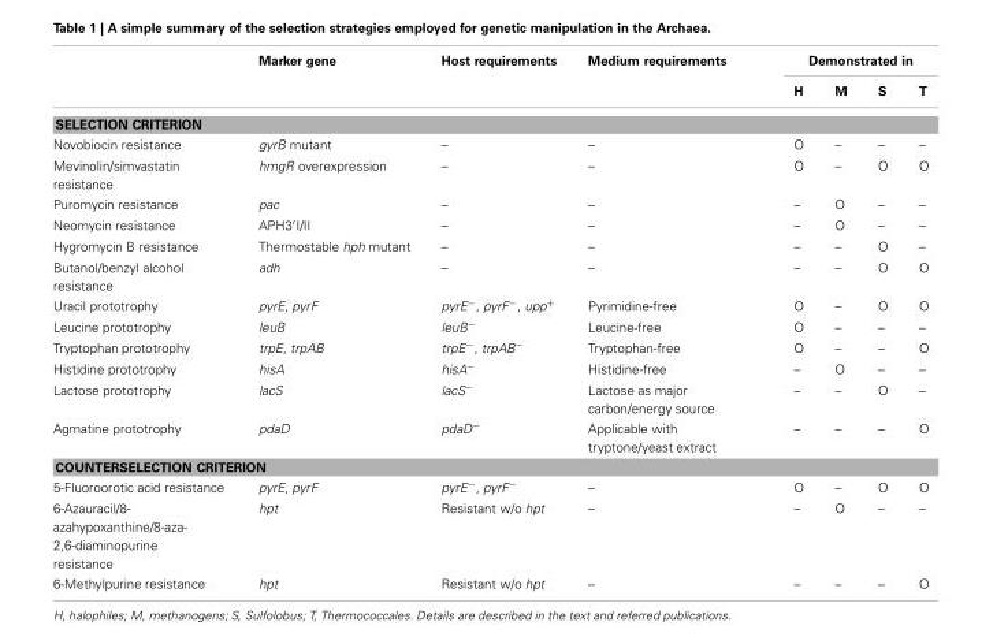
<table><thead><tr><td rowspan="2"></td><td rowspan="2">Marker gene</td><td rowspan="2">Host requirements</td><td rowspan="2">Medium requirements</td><td colspan="4">Demonstrated in</td></tr><tr><td>H</td><td>M</td><td>S</td><td>T</td></tr></thead><tbody><tr><td colspan="8">SELECTION CRITERION</td></tr><tr><td>Novobiocin resistance</td><td>gyrB mutant</td><td>–</td><td>–</td><td>O</td><td>–</td><td>–</td><td>–</td></tr><tr><td>Mevinolin/simvastatin resistance</td><td>hmgR overexpression</td><td>–</td><td>–</td><td>O</td><td>–</td><td>O</td><td>O</td></tr><tr><td>Puromycin resistance</td><td>pac</td><td>–</td><td>–</td><td>–</td><td>O</td><td>–</td><td>–</td></tr><tr><td>Neomycin resistance</td><td>APH3′I/II</td><td>–</td><td>–</td><td>–</td><td>O</td><td>–</td><td>–</td></tr><tr><td>Hygromycin B resistance</td><td>Thermostable hph mutant</td><td>–</td><td>–</td><td>–</td><td>–</td><td>O</td><td>–</td></tr><tr><td>Butanol/benzyl alcohol resistance</td><td>adh</td><td>–</td><td>–</td><td>–</td><td>–</td><td>O</td><td>O</td></tr><tr><td>Uracil prototrophy</td><td>pyrE, pyrF</td><td>pyrE<sup>−</sup>, pyrF<sup>−</sup>, upp<sup>+</sup></td><td>Pyrimidine-free</td><td>O</td><td>–</td><td>O</td><td>O</td></tr><tr><td>Leucine prototrophy</td><td>leuB</td><td>leuB<sup>−</sup></td><td>Leucine-free</td><td>O</td><td>–</td><td>–</td><td>–</td></tr><tr><td>Tryptophan prototrophy</td><td>trpE, trpAB</td><td>trpE<sup>−</sup>, trpAB<sup>−</sup></td><td>Tryptophan-free</td><td>O</td><td>–</td><td>–</td><td>O</td></tr><tr><td>Histidine prototrophy</td><td>hisA</td><td>hisA<sup>−</sup></td><td>Histidine-free</td><td>–</td><td>O</td><td>–</td><td>–</td></tr><tr><td>Lactose prototrophy</td><td>lacS</td><td>lacS<sup>−</sup></td><td>Lactose as major carbon/energy source</td><td>–</td><td>–</td><td>O</td><td>–</td></tr><tr><td>Agmatine prototrophy</td><td>pdaD</td><td>pdaD<sup>−</sup></td><td>Applicable with tryptone/yeast extract</td><td>–</td><td>–</td><td>–</td><td>O</td></tr><tr><td colspan="8">COUNTERSELECTION CRITERION</td></tr><tr><td>5-Fluoroorotic acid resistance</td><td>pyrE, pyrF</td><td>pyrE<sup>−</sup>, pyrF<sup>−</sup></td><td>–</td><td>O</td><td>–</td><td>O</td><td>O</td></tr><tr><td>6-Azauracil/8- azahypoxanthine/8-aza- 2,6-diaminopurine resistance</td><td>hpt</td><td>Resistant w/o hpt</td><td>–</td><td>–</td><td>O</td><td>–</td><td>–</td></tr><tr><td>6-Methylpurine resistance</td><td>hpt</td><td>Resistant w/o hpt</td><td>–</td><td>–</td><td>–</td><td>–</td><td>O</td></tr></tbody></table>